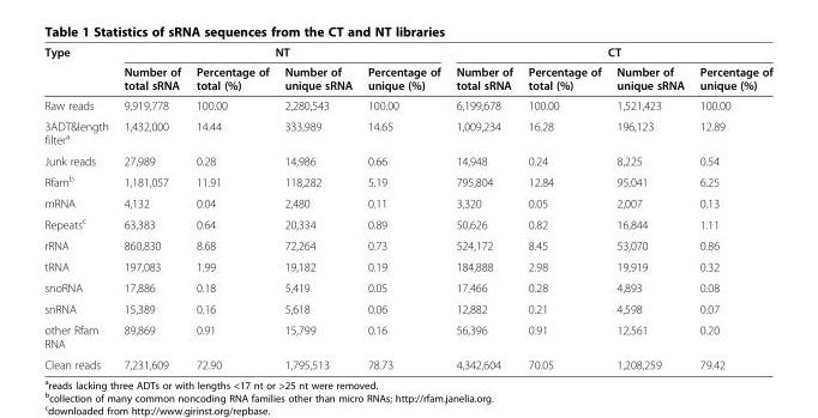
<table><thead><tr><td rowspan="2">Type</td><td colspan="4">NT</td><td colspan="4">CT</td></tr><tr><td>Number of total sRNA</td><td>Percentage of total (%)</td><td>Number of unique sRNA</td><td>Percentage of unique (%)</td><td>Number of total sRNA</td><td>Percentage of total (%)</td><td>Number of unique sRNA</td><td>Percentage of unique (%)</td></tr></thead><tbody><tr><td>Raw reads</td><td>9,919,778</td><td>100.00</td><td>2,280,543</td><td>100.00</td><td>6,199,678</td><td>100.00</td><td>1,521,423</td><td>100.00</td></tr><tr><td>3ADT&amp;length filter<sup>a</sup></td><td>1,432,000</td><td>14.44</td><td>333,989</td><td>14.65</td><td>1,009,234</td><td>16.28</td><td>196,123</td><td>12.89</td></tr><tr><td>Junk reads</td><td>27,989</td><td>0.28</td><td>14,986</td><td>0.66</td><td>14,948</td><td>0.24</td><td>8,225</td><td>0.54</td></tr><tr><td>Rfam<sup>b</sup></td><td>1,181,057</td><td>11.91</td><td>118,282</td><td>5.19</td><td>795,804</td><td>12.84</td><td>95,041</td><td>6.25</td></tr><tr><td>mRNA</td><td>4,132</td><td>0.04</td><td>2,480</td><td>0.11</td><td>3,320</td><td>0.05</td><td>2,007</td><td>0.13</td></tr><tr><td>Repeats<sup>c</sup></td><td>63,383</td><td>0.64</td><td>20,334</td><td>0.89</td><td>50,626</td><td>0.82</td><td>16,844</td><td>1.11</td></tr><tr><td>rRNA</td><td>860,830</td><td>8.68</td><td>72,264</td><td>0.73</td><td>524,172</td><td>8.45</td><td>53,070</td><td>0.86</td></tr><tr><td>tRNA</td><td>197,083</td><td>1.99</td><td>19,182</td><td>0.19</td><td>184,888</td><td>2.98</td><td>19,919</td><td>0.32</td></tr><tr><td>snoRNA</td><td>17,886</td><td>0.18</td><td>5,419</td><td>0.05</td><td>17,466</td><td>0.28</td><td>4,893</td><td>0.08</td></tr><tr><td>snRNA</td><td>15,389</td><td>0.16</td><td>5,618</td><td>0.06</td><td>12,882</td><td>0.21</td><td>4,598</td><td>0.07</td></tr><tr><td>other Rfam RNA</td><td>89,869</td><td>0.91</td><td>15,799</td><td>0.16</td><td>56,396</td><td>0.91</td><td>12,561</td><td>0.20</td></tr><tr><td>Clean reads</td><td>7,231,609</td><td>72.90</td><td>1,795,513</td><td>78.73</td><td>4,342,604</td><td>70.05</td><td>1,208,259</td><td>79.42</td></tr></tbody></table>